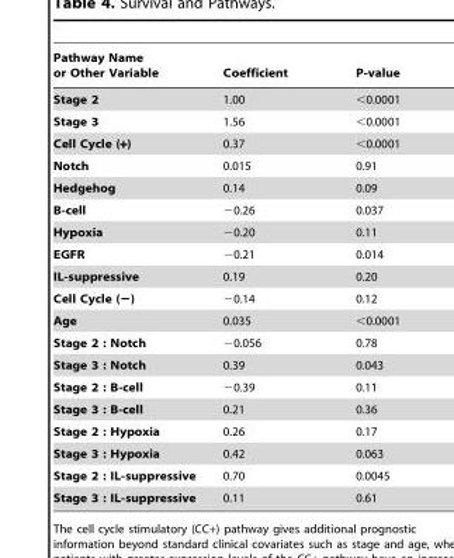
<table><thead><tr><td>Pathway Name or Other Variable</td><td>Coefficient</td><td>P-value</td></tr></thead><tbody><tr><td>Stage 2</td><td>1.00</td><td>&lt;0.0001</td></tr><tr><td>Stage 3</td><td>1.56</td><td>&lt;0.0001</td></tr><tr><td>Cell Cycle (+)</td><td>0.37</td><td>&lt;0.0001</td></tr><tr><td>Notch</td><td>0.015</td><td>0.91</td></tr><tr><td>Hedgehog</td><td>0.14</td><td>0.09</td></tr><tr><td>B-cell</td><td>−0.26</td><td>0.037</td></tr><tr><td>Hypoxia</td><td>−0.20</td><td>0.11</td></tr><tr><td>EGFR</td><td>−0.21</td><td>0.014</td></tr><tr><td>IL-suppressive</td><td>0.19</td><td>0.20</td></tr><tr><td>Cell Cycle (−)</td><td>−0.14</td><td>0.12</td></tr><tr><td>Age</td><td>0.035</td><td>&lt;0.0001</td></tr><tr><td>Stage 2 : Notch</td><td>−0.056</td><td>0.78</td></tr><tr><td>Stage 3 : Notch</td><td>0.39</td><td>0.043</td></tr><tr><td>Stage 2 : B-cell</td><td>−0.39</td><td>0.11</td></tr><tr><td>Stage 3 : B-cell</td><td>0.21</td><td>0.36</td></tr><tr><td>Stage 2 : Hypoxia</td><td>0.26</td><td>0.17</td></tr><tr><td>Stage 3 : Hypoxia</td><td>0.42</td><td>0.063</td></tr><tr><td>Stage 2 : IL-suppressive</td><td>0.70</td><td>0.0045</td></tr><tr><td>Stage 3 : IL-suppressive</td><td>0.11</td><td>0.61</td></tr></tbody></table>